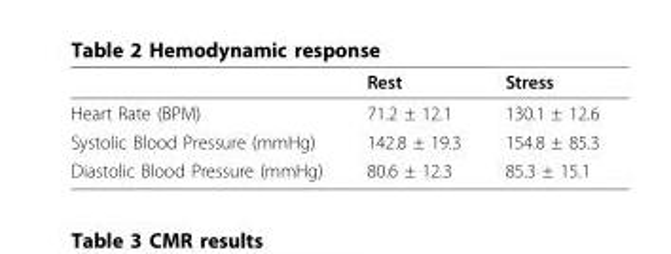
<table><thead><tr><td></td><td>Rest</td><td>Stress</td></tr></thead><tbody><tr><td>Heart Rate (BPM)</td><td>71.2 ± 12.1</td><td>130.1 ± 12.6</td></tr><tr><td>Systolic Blood Pressure (mmHg)</td><td>142.8 ± 19.3</td><td>154.8 ± 85.3</td></tr><tr><td>Diastolic Blood Pressure (mmHg)</td><td>80.6 ± 12.3</td><td>85.3 ± 15.1</td></tr></tbody></table>